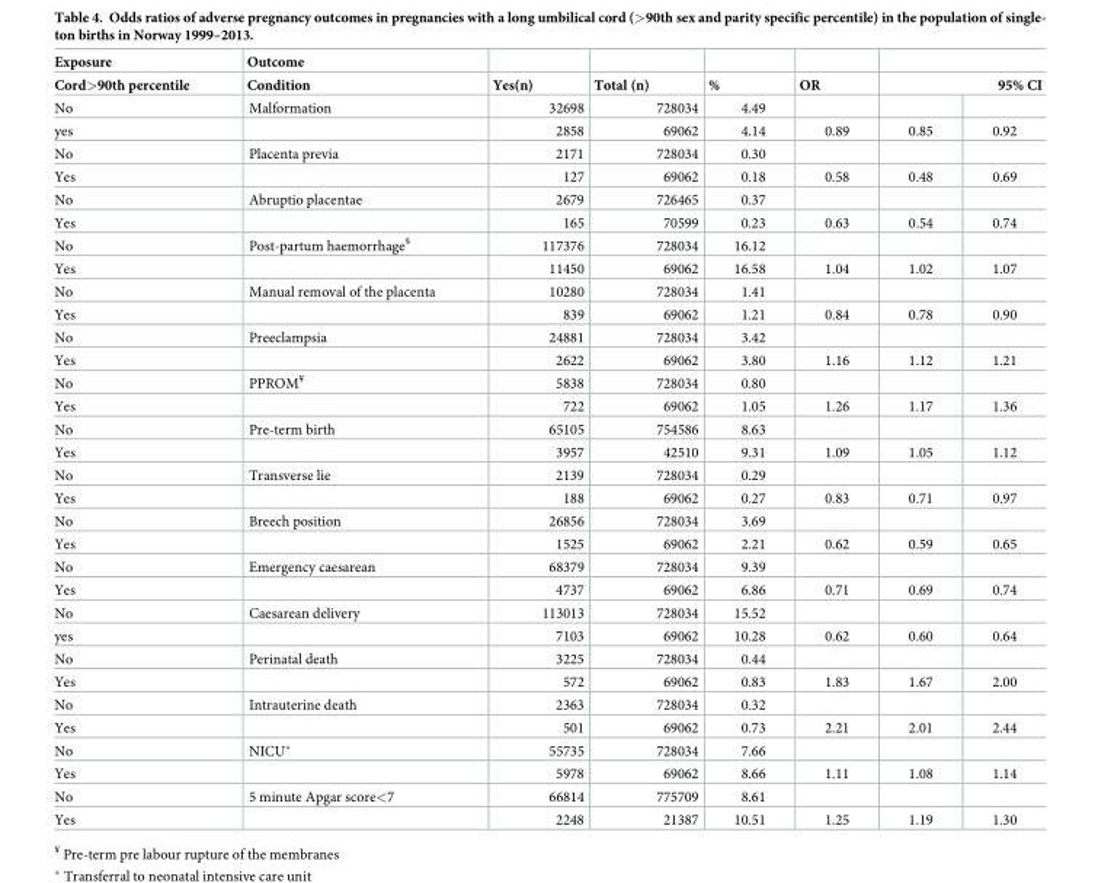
<table><thead><tr><td rowspan="2">Exposure Cord&gt;90th percentile</td><td rowspan="2">Outcome Condition</td><td rowspan="2">Yes(n)</td><td rowspan="2">Total (n)</td><td rowspan="2">%</td><td rowspan="2">OR</td><td></td><td></td></tr><tr><td colspan="2">95% CI</td></tr></thead><tbody><tr><td>No</td><td>Malformation</td><td>32698</td><td>728034</td><td>4.49</td><td></td><td></td><td></td></tr><tr><td>yes</td><td></td><td>2858</td><td>69062</td><td>4.14</td><td>0.89</td><td>0.85</td><td>0.92</td></tr><tr><td>No</td><td>Placenta previa</td><td>2171</td><td>728034</td><td>0.30</td><td></td><td></td><td></td></tr><tr><td>Yes</td><td></td><td>127</td><td>69062</td><td>0.18</td><td>0.58</td><td>0.48</td><td>0.69</td></tr><tr><td>No</td><td>Abruptio placentae</td><td>2679</td><td>726465</td><td>0.37</td><td></td><td></td><td></td></tr><tr><td>Yes</td><td></td><td>165</td><td>70599</td><td>0.23</td><td>0.63</td><td>0.54</td><td>0.74</td></tr><tr><td>No</td><td>Post-partum haemorrhage<sup>§</sup></td><td>117376</td><td>728034</td><td>16.12</td><td></td><td></td><td></td></tr><tr><td>Yes</td><td></td><td>11450</td><td>69062</td><td>16.58</td><td>1.04</td><td>1.02</td><td>1.07</td></tr><tr><td>No</td><td>Manual removal of the placenta</td><td>10280</td><td>728034</td><td>1.41</td><td></td><td></td><td></td></tr><tr><td>Yes</td><td></td><td>839</td><td>69062</td><td>1.21</td><td>0.84</td><td>0.78</td><td>0.90</td></tr><tr><td>No</td><td>Preeclampsia</td><td>24881</td><td>728034</td><td>3.42</td><td></td><td></td><td></td></tr><tr><td>Yes</td><td></td><td>2622</td><td>69062</td><td>3.80</td><td>1.16</td><td>1.12</td><td>1.21</td></tr><tr><td>No</td><td>PPROM<sup>¥</sup></td><td>5838</td><td>728034</td><td>0.80</td><td></td><td></td><td></td></tr><tr><td>Yes</td><td></td><td>722</td><td>69062</td><td>1.05</td><td>1.26</td><td>1.17</td><td>1.36</td></tr><tr><td>No</td><td>Pre-term birth</td><td>65105</td><td>754586</td><td>8.63</td><td></td><td></td><td></td></tr><tr><td>Yes</td><td></td><td>3957</td><td>42510</td><td>9.31</td><td>1.09</td><td>1.05</td><td>1.12</td></tr><tr><td>No</td><td>Transverse lie</td><td>2139</td><td>728034</td><td>0.29</td><td></td><td></td><td></td></tr><tr><td>Yes</td><td></td><td>188</td><td>69062</td><td>0.27</td><td>0.83</td><td>0.71</td><td>0.97</td></tr><tr><td>No</td><td>Breech position</td><td>26856</td><td>728034</td><td>3.69</td><td></td><td></td><td></td></tr><tr><td>Yes</td><td></td><td>1525</td><td>69062</td><td>2.21</td><td>0.62</td><td>0.59</td><td>0.65</td></tr><tr><td>No</td><td>Emergency caesarean</td><td>68379</td><td>728034</td><td>9.39</td><td></td><td></td><td></td></tr><tr><td>Yes</td><td></td><td>4737</td><td>69062</td><td>6.86</td><td>0.71</td><td>0.69</td><td>0.74</td></tr><tr><td>No</td><td>Caesarean delivery</td><td>113013</td><td>728034</td><td>15.52</td><td></td><td></td><td></td></tr><tr><td>yes</td><td></td><td>7103</td><td>69062</td><td>10.28</td><td>0.62</td><td>0.60</td><td>0.64</td></tr><tr><td>No</td><td>Perinatal death</td><td>3225</td><td>728034</td><td>0.44</td><td></td><td></td><td></td></tr><tr><td>Yes</td><td></td><td>572</td><td>69062</td><td>0.83</td><td>1.83</td><td>1.67</td><td>2.00</td></tr><tr><td>No</td><td>Intrauterine death</td><td>2363</td><td>728034</td><td>0.32</td><td></td><td></td><td></td></tr><tr><td>Yes</td><td></td><td>501</td><td>69062</td><td>0.73</td><td>2.21</td><td>2.01</td><td>2.44</td></tr><tr><td>No</td><td>NICU*</td><td>55735</td><td>728034</td><td>7.66</td><td></td><td></td><td></td></tr><tr><td>Yes</td><td></td><td>5978</td><td>69062</td><td>8.66</td><td>1.11</td><td>1.08</td><td>1.14</td></tr><tr><td>No</td><td>5 minute Apgar score&lt;7</td><td>66814</td><td>775709</td><td>8.61</td><td></td><td></td><td></td></tr><tr><td>Yes</td><td></td><td>2248</td><td>21387</td><td>10.51</td><td>1.25</td><td>1.19</td><td>1.30</td></tr></tbody></table>